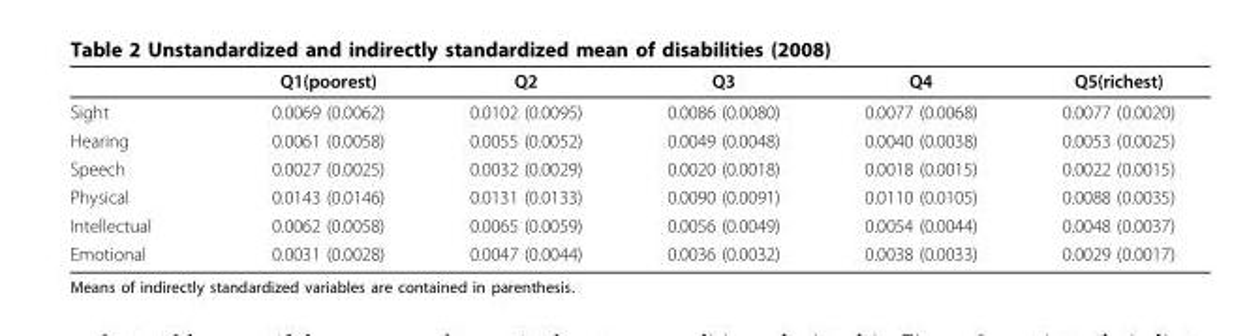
<table><thead><tr><td></td><td>Q1(poorest)</td><td>Q2</td><td>Q3</td><td>Q4</td><td>Q5(richest)</td></tr></thead><tbody><tr><td>Sight</td><td>0.0069 (0.0062)</td><td>0.0102 (0.0095)</td><td>0.0086 (0.0080)</td><td>0.0077 (0.0068)</td><td>0.0077 (0.0020)</td></tr><tr><td>Hearing</td><td>0.0061 (0.0058)</td><td>0.0055 (0.0052)</td><td>0.0049 (0.0048)</td><td>0.0040 (0.0038)</td><td>0.0053 (0.0025)</td></tr><tr><td>Speech</td><td>0.0027 (0.0025)</td><td>0.0032 (0.0029)</td><td>0.0020 (0.0018)</td><td>0.0018 (0.0015)</td><td>0.0022 (0.0015)</td></tr><tr><td>Physical</td><td>0.0143 (0.0146)</td><td>0.0131 (0.0133)</td><td>0.0090 (0.0091)</td><td>0.0110 (0.0105)</td><td>0.0088 (0.0035)</td></tr><tr><td>Intellectual</td><td>0.0062 (0.0058)</td><td>0.0065 (0.0059)</td><td>0.0056 (0.0049)</td><td>0.0054 (0.0044)</td><td>0.0048 (0.0037)</td></tr><tr><td>Emotional</td><td>0.0031 (0.0028)</td><td>0.0047 (0.0044)</td><td>0.0036 (0.0032)</td><td>0.0038 (0.0033)</td><td>0.0029 (0.0017)</td></tr></tbody></table>